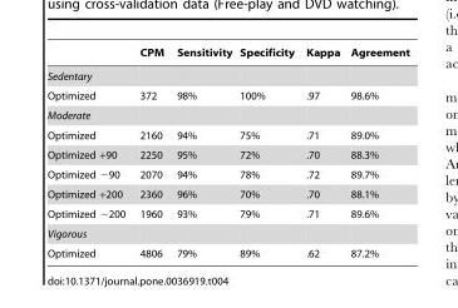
<table><thead><tr><td></td><td>CPM</td><td>Sensitivity</td><td>Specificity</td><td>Kappa</td><td>Agreement</td></tr></thead><tbody><tr><td colspan="6">Sedentary</td></tr><tr><td>Optimized</td><td>372</td><td>98%</td><td>100%</td><td>.97</td><td>98.6%</td></tr><tr><td colspan="6">Moderate</td></tr><tr><td>Optimized</td><td>2160</td><td>94%</td><td>75%</td><td>.71</td><td>89.0%</td></tr><tr><td>Optimized +90</td><td>2250</td><td>95%</td><td>72%</td><td>.70</td><td>88.3%</td></tr><tr><td>Optimized −90</td><td>2070</td><td>94%</td><td>78%</td><td>.72</td><td>89.7%</td></tr><tr><td>Optimized +200</td><td>2360</td><td>96%</td><td>70%</td><td>.70</td><td>88.1%</td></tr><tr><td>Optimized −200</td><td>1960</td><td>93%</td><td>79%</td><td>.71</td><td>89.6%</td></tr><tr><td colspan="6">Vigorous</td></tr><tr><td>Optimized</td><td>4806</td><td>79%</td><td>89%</td><td>.62</td><td>87.2%</td></tr></tbody></table>